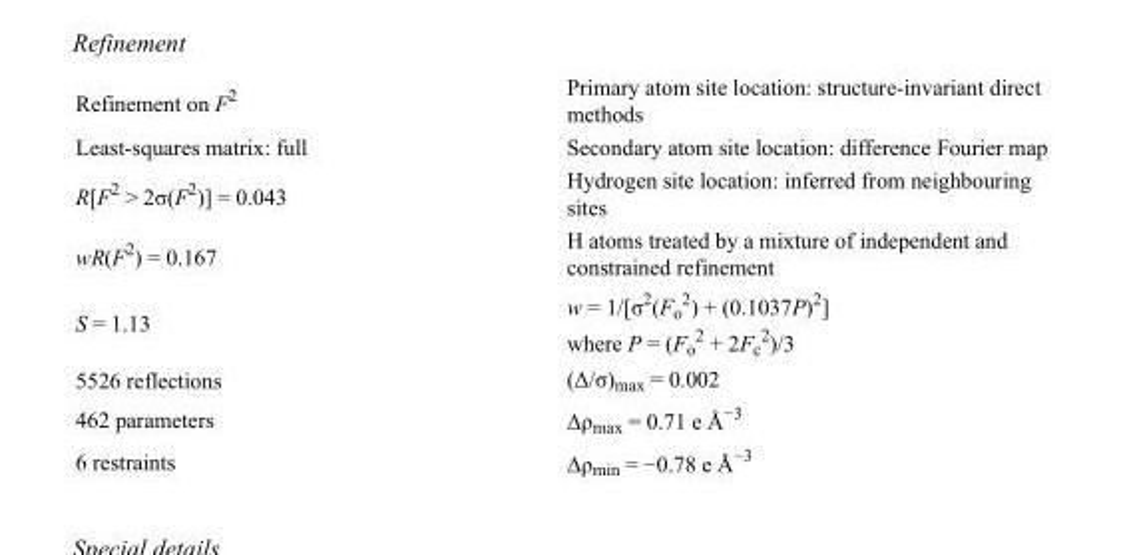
<table><tbody><tr><td>Refinement on F<sup>2</sup></td><td>Primary atom site location: structure-invariant direct methods</td></tr><tr><td>Least-squares matrix: full</td><td>Secondary atom site location: difference Fourier map</td></tr><tr><td>R[F<sup>2</sup> &gt; 2σ(F<sup>2</sup>)] = 0.043</td><td>Hydrogen site location: inferred from neighbouring sites</td></tr><tr><td>wR(F<sup>2</sup>) = 0.167</td><td>H atoms treated by a mixture of independent and constrained refinement</td></tr><tr><td>S = 1.13</td><td>w = 1/[σ<sup>2</sup>(F<sub>o</sub> <sup>2</sup>) + (0.1037P)<sup>2</sup>] where P = (F<sub>o</sub> <sup>2</sup> + 2F<sub>c</sub> <sup>2</sup>)/3</td></tr><tr><td>5526 reflections</td><td>(Δ/σ)<sub>max</sub> = 0.002</td></tr><tr><td>462 parameters</td><td>Δρ<sub>max</sub> = 0.71 e Å<sup>−3</sup></td></tr><tr><td>6 restraints</td><td>Δρ<sub>min</sub> = −0.78 e Å<sup>−3</sup></td></tr></tbody></table>